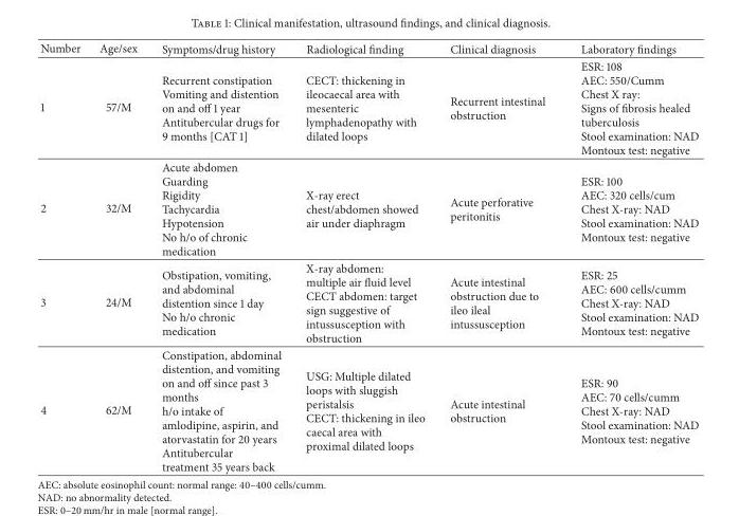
<table><thead><tr><td>Number</td><td>Age/sex</td><td>Symptoms/drug history</td><td>Radiological finding</td><td>Clinical diagnosis</td><td>Laboratory findings</td></tr></thead><tbody><tr><td>1</td><td>57/M</td><td>Recurrent constipation Vomiting and distention on and off 1 year Antitubercular drugs for 9 months [CAT 1]</td><td>CECT: thickening in ileocaecal area with mesenteric lymphadenopathy with dilated loops</td><td>Recurrent intestinal obstruction</td><td>ESR: 108 AEC: 550/Cumm Chest X ray: Signs of fibrosis healed tuberculosis Stool examination: NAD Montoux test: negative</td></tr><tr><td>2</td><td>32/M</td><td>Acute abdomen Guarding Rigidity Tachycardia Hypotension No h/o of chronic medication</td><td>X-ray erect chest/abdomen showed air under diaphragm</td><td>Acute perforative peritonitis</td><td>ESR: 100 AEC: 320 cells/cum Chest X-ray: NAD Stool examination: NAD Montoux test: negative</td></tr><tr><td>3</td><td>24/M</td><td>Obstipation, vomiting, and abdominal distention since 1 day No h/o chronic medication</td><td>X-ray abdomen: multiple air fluid level CECT abdomen: target sign suggestive of intussusception with obstruction</td><td>Acute intestinal obstruction due to ileo ileal intussusception</td><td>ESR: 25 AEC: 600 cells/cumm Chest X-ray: NAD Stool examination: NAD Montoux test: negative</td></tr><tr><td>4</td><td>62/M</td><td>Constipation, abdominal distention, and vomiting on and off since past 3 months h/o intake of amlodipine, aspirin, and atorvastatin for 20 years Antitubercular treatment 35 years back</td><td>USG: Multiple dilated loops with sluggish peristalsis CECT: thickening in ileo caecal area with proximal dilated loops</td><td>Acute intestinal obstruction</td><td>ESR: 90 AEC: 70 cells/cumm Chest X-ray: NAD Stool examination: NAD Montoux test: negative</td></tr></tbody></table>